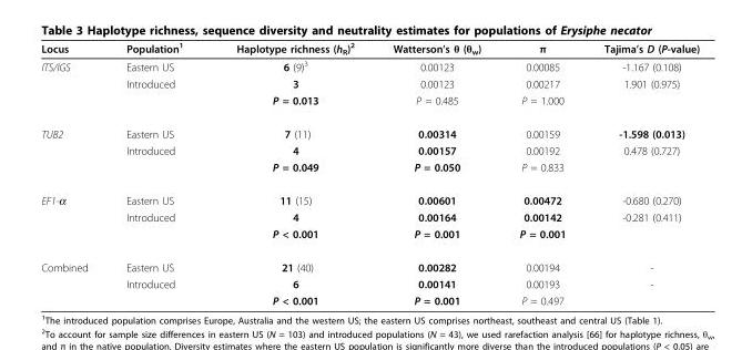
<table><thead><tr><td>Locus</td><td>Population<sup>1</sup></td><td>Haplotype richness (h<sub>R</sub>)<sup>2</sup></td><td>Watterson’s θ (θ<sub>w</sub>)</td><td>π</td><td>Tajima’s D (P-value)</td></tr></thead><tbody><tr><td rowspan="3">ITS/IGS</td><td>Eastern US</td><td>6 (9)<sup>3</sup></td><td>0.00123</td><td>0.00085</td><td>-1.167 (0.108)</td></tr><tr><td>Introduced</td><td>3</td><td>0.00123</td><td>0.00217</td><td>1.901 (0.975)</td></tr><tr><td></td><td>P = 0.013</td><td>P = 0.485</td><td>P = 1.000</td><td></td></tr><tr><td rowspan="3">TUB2</td><td>Eastern US</td><td>7 (11)</td><td>0.00314</td><td>0.00159</td><td>-1.598 (0.013)</td></tr><tr><td>Introduced</td><td>4</td><td>0.00157</td><td>0.00192</td><td>0.478 (0.727)</td></tr><tr><td></td><td>P = 0.049</td><td>P = 0.050</td><td>P = 0.833</td><td></td></tr><tr><td rowspan="3">EF1-α</td><td>Eastern US</td><td>11 (15)</td><td>0.00601</td><td>0.00472</td><td>-0.680 (0.270)</td></tr><tr><td>Introduced</td><td>4</td><td>0.00164</td><td>0.00142</td><td>-0.281 (0.411)</td></tr><tr><td></td><td>P &lt; 0.001</td><td>P = 0.001</td><td>P = 0.001</td><td></td></tr><tr><td rowspan="3">Combined</td><td>Eastern US</td><td>21 (40)</td><td>0.00282</td><td>0.00194</td><td>-</td></tr><tr><td>Introduced</td><td>6</td><td>0.00141</td><td>0.00193</td><td>-</td></tr><tr><td></td><td>P &lt; 0.001</td><td>P = 0.001</td><td>P = 0.497</td><td></td></tr></tbody></table>